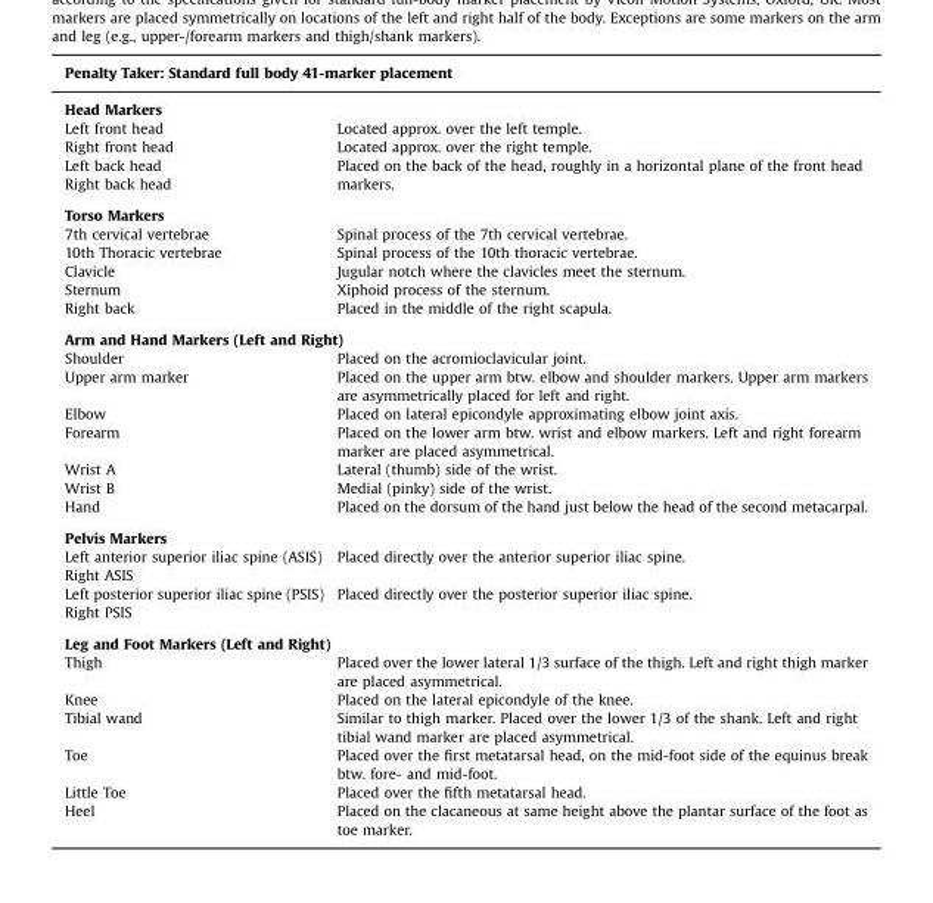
<table><thead><tr><td rowspan="2" colspan="2">Penalty Taker: Standard full body 41-marker placement Head Markers</td></tr><tr></tr><tr><td>Left front head</td><td>Located approx. over the left temple.</td></tr></thead><tbody><tr><td>Right front head</td><td>Located approx. over the right temple.</td></tr><tr><td>Left back head</td><td rowspan="2">Placed on the back of the head, roughly in a horizontal plane of the front head markers.</td></tr><tr><td>Right back head</td></tr><tr><td colspan="2">Torso Markers</td></tr><tr><td>7th cervical vertebrae</td><td>Spinal process of the 7th cervical vertebrae.</td></tr><tr><td>10th Thoracic vertebrae</td><td>Spinal process of the 10th thoracic vertebrae.</td></tr><tr><td>Clavicle</td><td>Jugular notch where the clavicles meet the sternum.</td></tr><tr><td>Sternum</td><td>Xiphoid process of the sternum.</td></tr><tr><td>Right back</td><td>Placed in the middle of the right scapula.</td></tr><tr><td colspan="2">Arm and Hand Markers (Left and Right)</td></tr><tr><td>Shoulder</td><td>Placed on the acromioclavicular joint.</td></tr><tr><td>Upper arm marker</td><td>Placed on the upper arm btw. elbow and shoulder markers. Upper arm markers are asymmetrically placed for left and right.</td></tr><tr><td>Elbow</td><td>Placed on lateral epicondyle approximating elbow joint axis.</td></tr><tr><td>Forearm</td><td>Placed on the lower arm btw. wrist and elbow markers. Left and right forearm marker are placed asymmetrical.</td></tr><tr><td>Wrist A</td><td>Lateral (thumb) side of the wrist.</td></tr><tr><td>Wrist B</td><td>Medial (pinky) side of the wrist.</td></tr><tr><td>Hand</td><td>Placed on the dorsum of the hand just below the head of the second metacarpal.</td></tr><tr><td colspan="2">Pelvis Markers</td></tr><tr><td>Left anterior superior iliac spine (ASIS)</td><td rowspan="2">Placed directly over the anterior superior iliac spine.</td></tr><tr><td>Right ASIS</td></tr><tr><td>Left posterior superior iliac spine (PSIS)</td><td rowspan="2">Placed directly over the posterior superior iliac spine.</td></tr><tr><td>Right PSIS</td></tr><tr><td colspan="2">Leg and Foot Markers (Left and Right)</td></tr><tr><td>Thigh</td><td>Placed over the lower lateral 1/3 surface of the thigh. Left and right thigh marker are placed asymmetrical.</td></tr><tr><td>Knee</td><td>Placed on the lateral epicondyle of the knee.</td></tr><tr><td>Tibial wand</td><td>Similar to thigh marker. Placed over the lower 1/3 of the shank. Left and right tibial wand marker are placed asymmetrical.</td></tr><tr><td>Toe</td><td>Placed over the first metatarsal head, on the mid-foot side of the equinus break btw. fore- and mid-foot.</td></tr><tr><td>Little Toe</td><td>Placed over the fifth metatarsal head.</td></tr><tr><td>Heel</td><td>Placed on the clacaneous at same height above the plantar surface of the foot as toe marker.</td></tr></tbody></table>